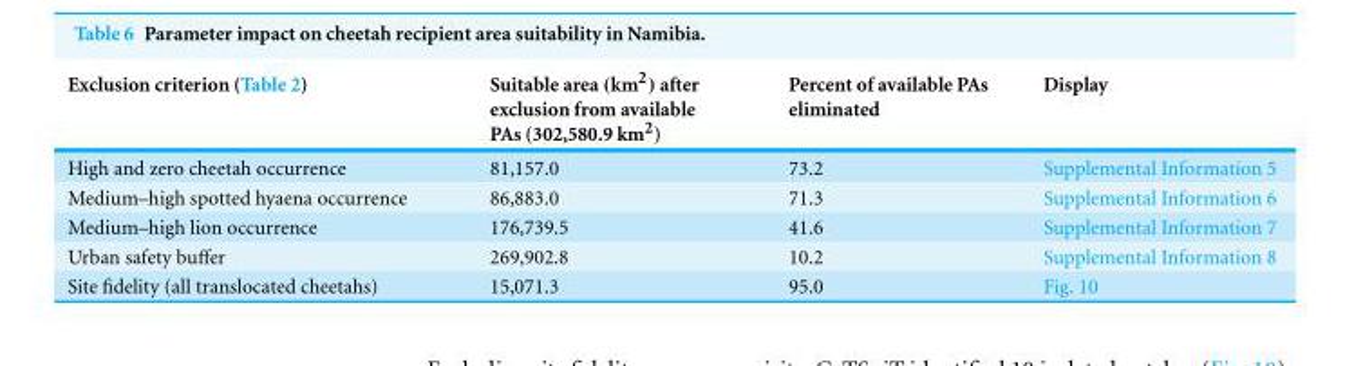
<table><thead><tr><td>Exclusion criterion (Table 2)</td><td>Suitable area (km<sup>2</sup>) after exclusion from available PAs (302,580.9 km<sup>2</sup>)</td><td>Percent of available PAs eliminated</td><td>Display</td></tr></thead><tbody><tr><td>High and zero cheetah occurrence</td><td>81,157.0</td><td>73.2</td><td>Supplemental Information 5</td></tr><tr><td>Medium–high spotted hyaena occurrence</td><td>86,883.0</td><td>71.3</td><td>Supplemental Information 6</td></tr><tr><td>Medium–high lion occurrence</td><td>176,739.5</td><td>41.6</td><td>Supplemental Information 7</td></tr><tr><td>Urban safety buffer</td><td>269,902.8</td><td>10.2</td><td>Supplemental Information 8</td></tr><tr><td>Site fidelity (all translocated cheetahs)</td><td>15,071.3</td><td>95.0</td><td>Fig. 10</td></tr></tbody></table>